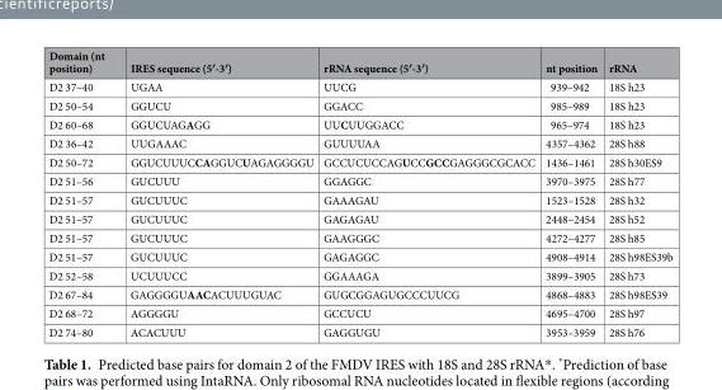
<table><thead><tr><td>Domain (nt position)</td><td>IRES sequence (5′-3′)</td><td>rRNA sequence (5′-3′)</td><td>nt position</td><td>rRNA</td></tr></thead><tbody><tr><td>D2 37–40</td><td>UGAA</td><td>UUCG</td><td>939–942</td><td>18S h23</td></tr><tr><td>D2 50–54</td><td>GGUCU</td><td>GGACC</td><td>985–989</td><td>18S h23</td></tr><tr><td>D2 60–68</td><td>GGUCUAGAGG</td><td>UUCUUGGACC</td><td>965–974</td><td>18S h23</td></tr><tr><td>D2 36–42</td><td>UUGAAAC</td><td>GUUUUAA</td><td>4357–4362</td><td>28S h88</td></tr><tr><td>D2 50–72</td><td>GGUCUUUCCAGGUCUAGAGGGGU</td><td>GCCUCUCCAGUCCGCCGAGGGCGCACC</td><td>1436–1461</td><td>28S h30ES9</td></tr><tr><td>D2 51–56</td><td>GUCUUU</td><td>GGAGGC</td><td>3970–3975</td><td>28S h77</td></tr><tr><td>D2 51–57</td><td>GUCUUUC</td><td>GAAAGAU</td><td>1523–1528</td><td>28S h32</td></tr><tr><td>D2 51–57</td><td>GUCUUUC</td><td>GAGAGAU</td><td>2448–2454</td><td>28S h52</td></tr><tr><td>D2 51–57</td><td>GUCUUUC</td><td>GAAGGGC</td><td>4272–4277</td><td>28S h85</td></tr><tr><td>D2 51–57</td><td>GUCUUUC</td><td>GAGAGGC</td><td>4908–4914</td><td>28S h98ES39b</td></tr><tr><td>D2 52–58</td><td>UCUUUCC</td><td>GGAAAGA</td><td>3899–3905</td><td>28S h73</td></tr><tr><td>D2 67–84</td><td>GAGGGGUAACACUUUGUAC</td><td>GUGCGGAGUGCCCUUCG</td><td>4868–4883</td><td>28S h98ES39</td></tr><tr><td>D2 68–72</td><td>AGGGGU</td><td>GCCUCU</td><td>4695–4700</td><td>28S h97</td></tr><tr><td>D2 74–80</td><td>ACACUUU</td><td>GAGGUGU</td><td>3953–3959</td><td>28S h76</td></tr></tbody></table>